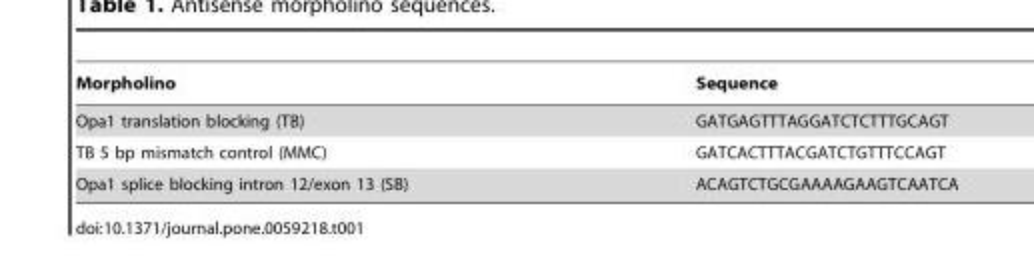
<table><thead><tr><td>Morpholino</td><td>Sequence</td></tr></thead><tbody><tr><td>Opa1 translation blocking (TB)</td><td>GATGAGTTTAGGATCTCTTTGCAGT</td></tr><tr><td>TB 5 bp mismatch control (MMC)</td><td>GATCACTTTACGATCTGTTTCCAGT</td></tr><tr><td>Opa1 splice blocking intron 12/exon 13 (SB)</td><td>ACAGTCTGCGAAAAGAAGTCAATCA</td></tr></tbody></table>